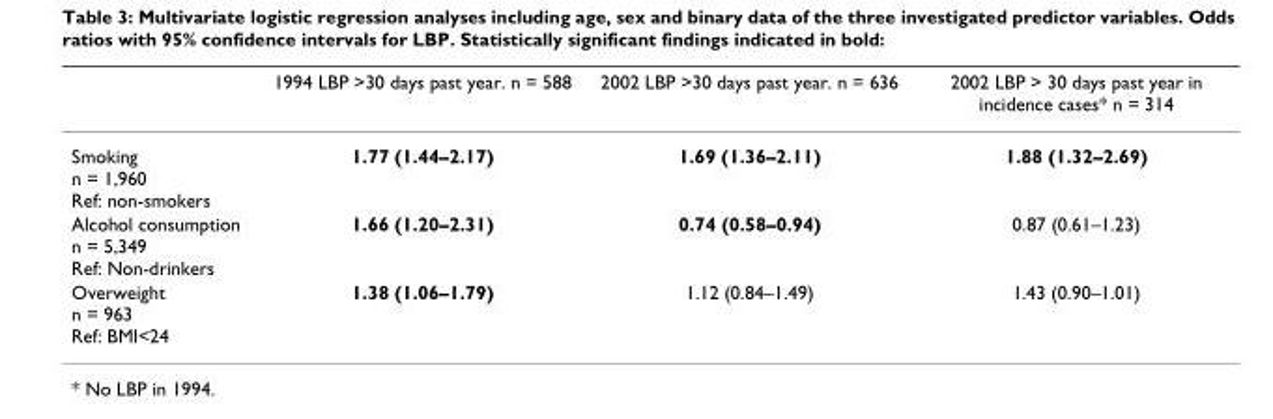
<table><thead><tr><td></td><td>1994 LBP &gt;30 days past year. n = 588</td><td>2002 LBP &gt;30 days past year. n = 636</td><td>2002 LBP &gt; 30 days past year in incidence cases* n = 314</td></tr></thead><tbody><tr><td>Smoking n = 1,960 Ref: non-smokers</td><td>1.77 (1.44–2.17)</td><td>1.69 (1.36–2.11)</td><td>1.88 (1.32–2.69)</td></tr><tr><td>Alcohol consumption n = 5,349 Ref: Non-drinkers</td><td>1.66 (1.20–2.31)</td><td>0.74 (0.58–0.94)</td><td>0.87 (0.61–1.23)</td></tr><tr><td>Overweight n = 963 Ref: BMI&lt;24</td><td>1.38 (1.06–1.79)</td><td>1.12 (0.84–1.49)</td><td>1.43 (0.90–1.01)</td></tr></tbody></table>